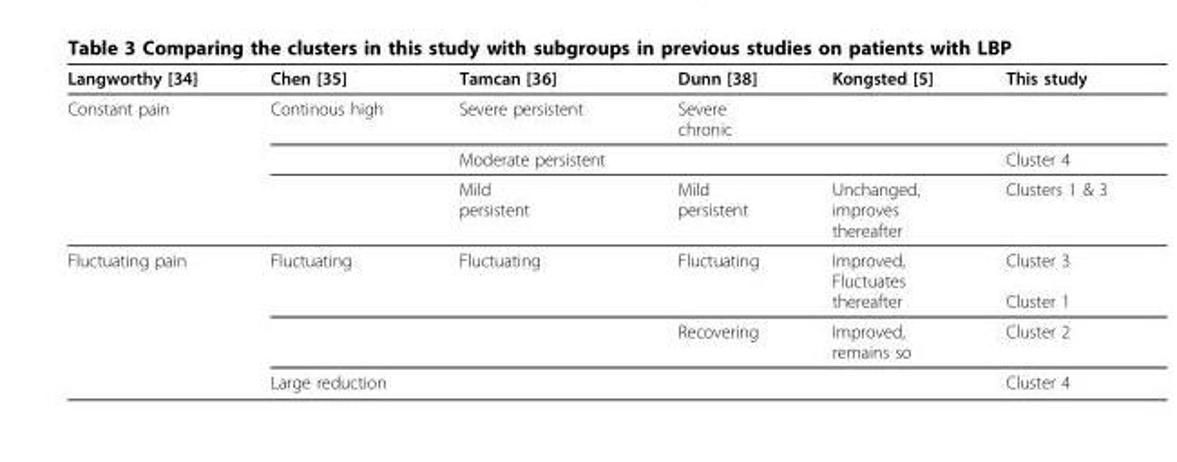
<table><thead><tr><td>Langworthy [34]</td><td>Chen [35]</td><td>Tamcan [36]</td><td>Dunn [38]</td><td>Kongsted [5]</td><td>This study</td></tr></thead><tbody><tr><td rowspan="3">Constant pain</td><td>Continous high</td><td>Severe persistent</td><td>Severe chronic</td><td></td><td></td></tr><tr><td></td><td>Moderate persistent</td><td></td><td></td><td>Cluster 4</td></tr><tr><td></td><td>Mild persistent</td><td>Mild persistent</td><td>Unchanged, improves thereafter</td><td>Clusters 1 &amp; 3</td></tr><tr><td rowspan="3">Fluctuating pain</td><td>Fluctuating</td><td>Fluctuating</td><td>Fluctuating</td><td>Improved, Fluctuates thereafter</td><td>Cluster 3 Cluster 1</td></tr><tr><td></td><td></td><td>Recovering</td><td>Improved, remains so</td><td>Cluster 2</td></tr><tr><td>Large reduction</td><td></td><td></td><td></td><td>Cluster 4</td></tr></tbody></table>